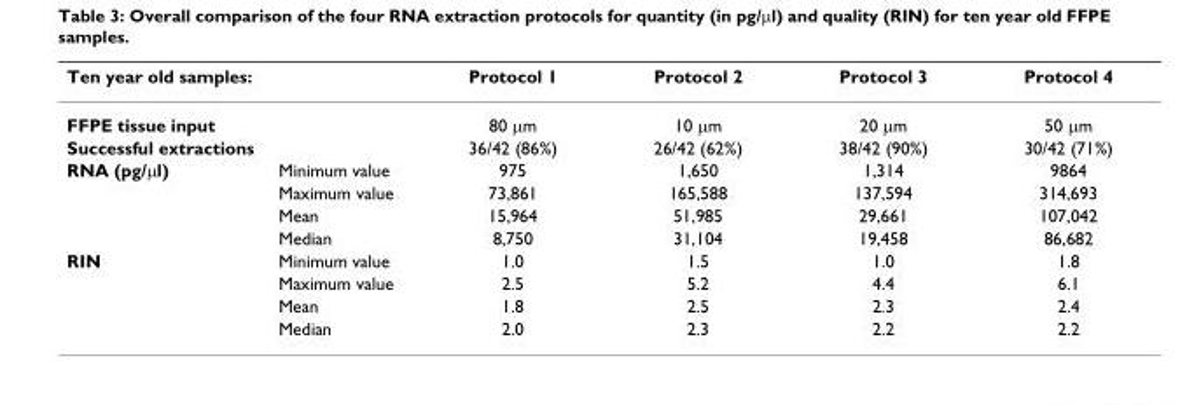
<table><thead><tr><td>Ten year old samples:</td><td></td><td>Protocol 1</td><td>Protocol 2</td><td>Protocol 3</td><td>Protocol 4</td></tr></thead><tbody><tr><td>FFPE tissue input</td><td></td><td>80 μm</td><td>10 μm</td><td>20 μm</td><td>50 μm</td></tr><tr><td>Successful extractions</td><td></td><td>36/42 (86%)</td><td>26/42 (62%)</td><td>38/42 (90%)</td><td>30/42 (71%)</td></tr><tr><td rowspan="4">RNA (pg/μl)</td><td>Minimum value</td><td>975</td><td>1,650</td><td>1,314</td><td>9864</td></tr><tr><td>Maximum value</td><td>73,861</td><td>165,588</td><td>137,594</td><td>314,693</td></tr><tr><td>Mean</td><td>15,964</td><td>51,985</td><td>29,661</td><td>107,042</td></tr><tr><td>Median</td><td>8,750</td><td>31,104</td><td>19,458</td><td>86,682</td></tr><tr><td rowspan="4">RIN</td><td>Minimum value</td><td>1.0</td><td>1.5</td><td>1.0</td><td>1.8</td></tr><tr><td>Maximum value</td><td>2.5</td><td>5.2</td><td>4.4</td><td>6.1</td></tr><tr><td>Mean</td><td>1.8</td><td>2.5</td><td>2.3</td><td>2.4</td></tr><tr><td>Median</td><td>2.0</td><td>2.3</td><td>2.2</td><td>2.2</td></tr></tbody></table>